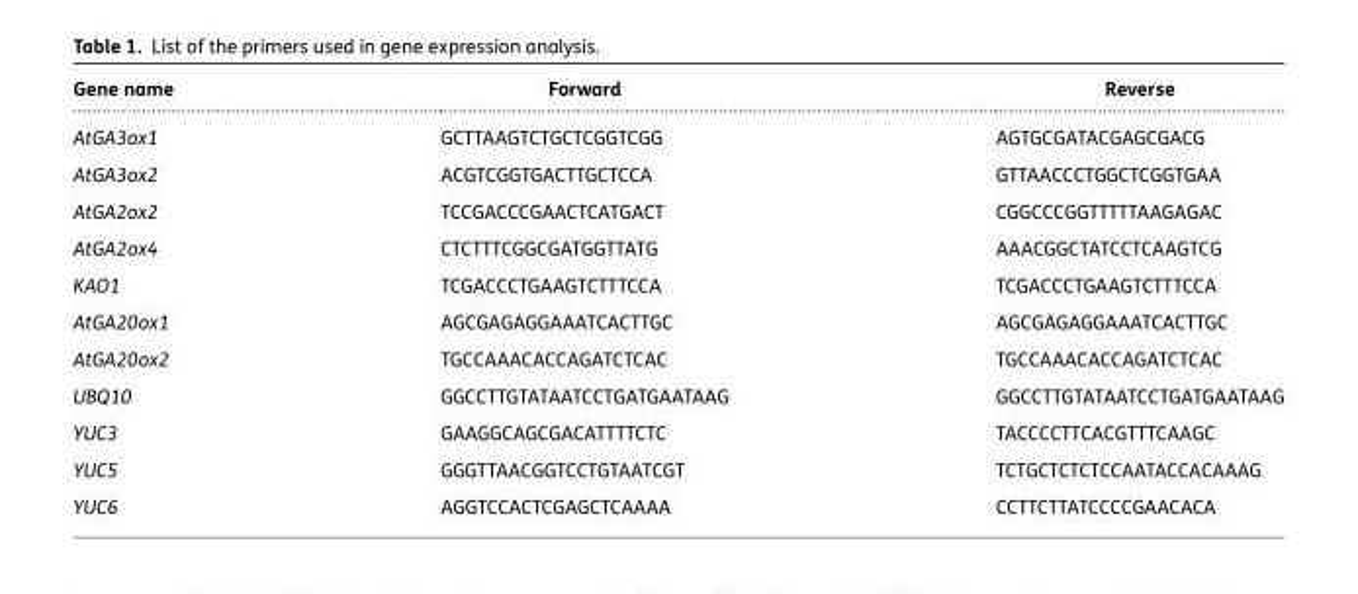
<table><thead><tr><td>Gene name</td><td>Forward</td><td>Reverse</td></tr></thead><tbody><tr><td>AtGA3ox1</td><td>GCTTAAGTCTGCTCGGTCGG</td><td>AGTGCGATACGAGCGACG</td></tr><tr><td>AtGA3ox2</td><td>ACGTCGGTGACTTGCTCCA</td><td>GTTAACCCTGGCTCGGTGAA</td></tr><tr><td>AtGA2ox2</td><td>TCCGACCCGAACTCATGACT</td><td>CGGCCCGGTTTTTAAGAGAC</td></tr><tr><td>AtGA2ox4</td><td>CTCTTTCGGCGATGGTTATG</td><td>AAACGGCTATCCTCAAGTCG</td></tr><tr><td>KAO1</td><td>TCGACCCTGAAGTCTTTCCA</td><td>TCGACCCTGAAGTCTTTCCA</td></tr><tr><td>AtGA20ox1</td><td>AGCGAGAGGAAATCACTTGC</td><td>AGCGAGAGGAAATCACTTGC</td></tr><tr><td>AtGA20ox2</td><td>TGCCAAACACCAGATCTCAC</td><td>TGCCAAACACCAGATCTCAC</td></tr><tr><td>UBQ10</td><td>GGCCTTGTATAATCCTGATGAATAAG</td><td>GGCCTTGTATAATCCTGATGAATAAG</td></tr><tr><td>YUC3</td><td>GAAGGCAGCGACATTTTCTC</td><td>TACCCCTTCACGTTTCAAGC</td></tr><tr><td>YUC5</td><td>GGGTTAACGGTCCTGTAATCGT</td><td>TCTGCTCTCTCCAATACCACAAAG</td></tr><tr><td>YUC6</td><td>AGGTCCACTCGAGCTCAAAA</td><td>CCTTCTTATCCCCGAACACA</td></tr></tbody></table>